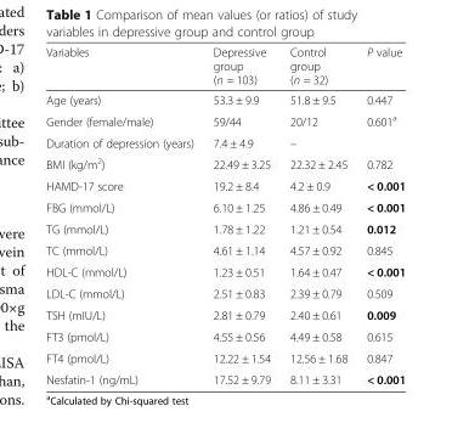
<table><thead><tr><td>Variables</td><td>Depressive group (n = 103)</td><td>Control group (n = 32)</td><td>P value</td></tr></thead><tbody><tr><td>Age (years)</td><td>53.3 ± 9.9</td><td>51.8 ± 9.5</td><td>0.447</td></tr><tr><td>Gender (female/male)</td><td>59/44</td><td>20/12</td><td>0.601<sup>a</sup></td></tr><tr><td>Duration of depression (years)</td><td>7.4 ± 4.9</td><td>–</td><td></td></tr><tr><td>BMI (kg/m<sup>2</sup>)</td><td>22.49 ± 3.25</td><td>22.32 ± 2.45</td><td>0.782</td></tr><tr><td>HAMD-17 score</td><td>19.2 ± 8.4</td><td>4.2 ± 0.9</td><td>&lt; 0.001</td></tr><tr><td>FBG (mmol/L)</td><td>6.10 ± 1.25</td><td>4.86 ± 0.49</td><td>&lt; 0.001</td></tr><tr><td>TG (mmol/L)</td><td>1.78 ± 1.22</td><td>1.21 ± 0.54</td><td>0.012</td></tr><tr><td>TC (mmol/L)</td><td>4.61 ± 1.14</td><td>4.57 ± 0.92</td><td>0.845</td></tr><tr><td>HDL-C (mmol/L)</td><td>1.23 ± 0.51</td><td>1.64 ± 0.47</td><td>&lt; 0.001</td></tr><tr><td>LDL-C (mmol/L)</td><td>2.51 ± 0.83</td><td>2.39 ± 0.79</td><td>0.509</td></tr><tr><td>TSH (mIU/L)</td><td>2.81 ± 0.79</td><td>2.40 ± 0.61</td><td>0.009</td></tr><tr><td>FT3 (pmol/L)</td><td>4.55 ± 0.56</td><td>4.49 ± 0.58</td><td>0.615</td></tr><tr><td>FT4 (pmol/L)</td><td>12.22 ± 1.54</td><td>12.56 ± 1.68</td><td>0.847</td></tr><tr><td>Nesfatin-1 (ng/mL)</td><td>17.52 ± 9.79</td><td>8.11 ± 3.31</td><td>&lt; 0.001</td></tr></tbody></table>